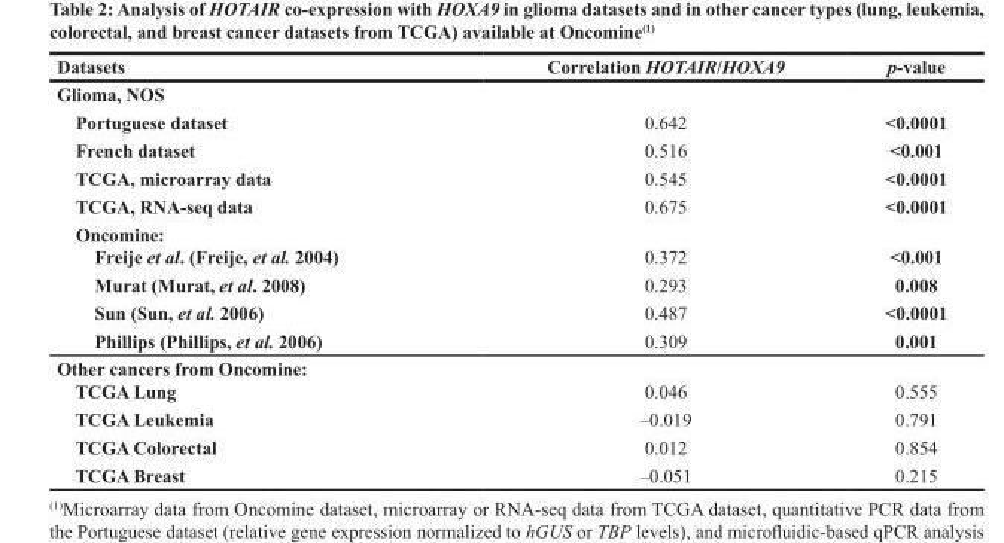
<table><thead><tr><td>Datasets</td><td>Correlation HOTAIR/HOXA9</td><td>p-value</td></tr></thead><tbody><tr><td colspan="3">Glioma, NOS</td></tr><tr><td>Portuguese dataset</td><td>0.642</td><td>&lt;0.0001</td></tr><tr><td>French dataset</td><td>0.516</td><td>&lt;0.001</td></tr><tr><td>TCGA, microarray data</td><td>0.545</td><td>&lt;0.0001</td></tr><tr><td>TCGA, RNA-seq data</td><td>0.675</td><td>&lt;0.0001</td></tr><tr><td colspan="3">Oncomine:</td></tr><tr><td>Freije et al. (Freije, et al. 2004)</td><td>0.372</td><td>&lt;0.001</td></tr><tr><td>Murat (Murat, et al. 2008)</td><td>0.293</td><td>0.008</td></tr><tr><td>Sun (Sun, et al. 2006)</td><td>0.487</td><td>&lt;0.0001</td></tr><tr><td>Phillips (Phillips, et al. 2006)</td><td>0.309</td><td>0.001</td></tr><tr><td colspan="3">Other cancers from Oncomine:</td></tr><tr><td>TCGA Lung</td><td>0.046</td><td>0.555</td></tr><tr><td>TCGA Leukemia</td><td>–0.019</td><td>0.791</td></tr><tr><td>TCGA Colorectal</td><td>0.012</td><td>0.854</td></tr><tr><td>TCGA Breast</td><td>–0.051</td><td>0.215</td></tr></tbody></table>